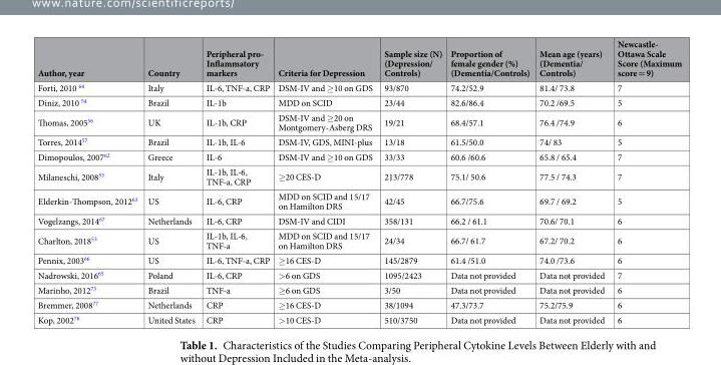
<table><thead><tr><td>Author, year</td><td>Country</td><td>Peripheral pro- Inflammatory markers</td><td>Criteria for Depression</td><td>Sample size (N) (Depression/ Controls)</td><td>Proportion of female gender (%) (Dementia/Controls)</td><td>Mean age (years) (Dementia/ Controls)</td><td>Newcastle- Ottawa Scale Score (Maximum score = 9)</td></tr></thead><tbody><tr><td>Forti, 2010 <sup>64</sup></td><td>Italy</td><td>IL-6, TNF-a, CRP</td><td>DSM-IV and ≥10 on GDS</td><td>93/870</td><td>74.2/52.9</td><td>81.4/ 73.8</td><td>7</td></tr><tr><td>Diniz, 2010 <sup>54</sup></td><td>Brazil</td><td>IL-1b</td><td>MDD on SCID</td><td>23/44</td><td>82.6/86.4</td><td>70.2 /69.5</td><td>5</td></tr><tr><td>Thomas, 2005<sup>56</sup></td><td>UK</td><td>IL-1b, CRP</td><td>DSM-IV and ≥20 on Montgomery-Asberg DRS</td><td>19/21</td><td>68.4/57.1</td><td>76.4 /74.9</td><td>6</td></tr><tr><td>Torres, 2014<sup>57</sup></td><td>Brazil</td><td>IL-1b, IL-6</td><td>DSM-IV, GDS, MINI-plus</td><td>13/18</td><td>61.5/50.0</td><td>74/ 83</td><td>5</td></tr><tr><td>Dimopoulos, 2007<sup>62</sup></td><td>Greece</td><td>IL-6</td><td>DSM-IV and ≥10 on GDS</td><td>33/33</td><td>60.6 /60.6</td><td>65.8 / 65.4</td><td>7</td></tr><tr><td>Milaneschi, 2008<sup>55</sup></td><td>Italy</td><td>IL-1b, IL-6, TNF-a, CRP</td><td>≥20 CES-D</td><td>213/778</td><td>75.1/ 50.6</td><td>77.5 / 74.3</td><td>7</td></tr><tr><td>Elderkin-Thompson, 2012<sup>63</sup></td><td>US</td><td>IL-6, CRP</td><td>MDD on SCID and 15/17 on Hamilton DRS</td><td>42/45</td><td>66.7/75.6</td><td>69.7 / 69.2</td><td>5</td></tr><tr><td>Vogelzangs, 2014<sup>67</sup></td><td>Netherlands</td><td>IL-6, CRP</td><td>DSM-IV and CIDI</td><td>358/131</td><td>66.2 / 61.1</td><td>70.6/ 70.1</td><td>6</td></tr><tr><td>Charlton, 2018<sup>53</sup></td><td>US</td><td>IL-1b, IL-6, TNF-a</td><td>MDD on SCID and 15/17 on Hamilton DRS</td><td>24/34</td><td>66.7/ 61.7</td><td>67.2/ 70.2</td><td>6</td></tr><tr><td>Pennix, 2003<sup>66</sup></td><td>US</td><td>IL-6, TNF-a, CRP</td><td>≥16 CES-D</td><td>145/2879</td><td>61.4 /51.0</td><td>74.0 /73.6</td><td>6</td></tr><tr><td>Nadrowski, 2016<sup>65</sup></td><td>Poland</td><td>IL-6, CRP</td><td>&gt;6 on GDS</td><td>1095/2423</td><td>Data not provided</td><td>Data not provided</td><td>7</td></tr><tr><td>Marinho, 2012<sup>73</sup></td><td>Brazil</td><td>TNF-a</td><td>≥6 on GDS</td><td>3/50</td><td>Data not provided</td><td>Data not provided</td><td>6</td></tr><tr><td>Bremmer, 2008<sup>77</sup></td><td>Netherlands</td><td>CRP</td><td>≥16 CES-D</td><td>38/1094</td><td>47.3/73.7</td><td>75.2/75.9</td><td>6</td></tr><tr><td>Kop, 2002<sup>78</sup></td><td>United States</td><td>CRP</td><td>&gt;10 CES-D</td><td>510/3750</td><td>Data not provided</td><td>Data not provided</td><td>6</td></tr></tbody></table>